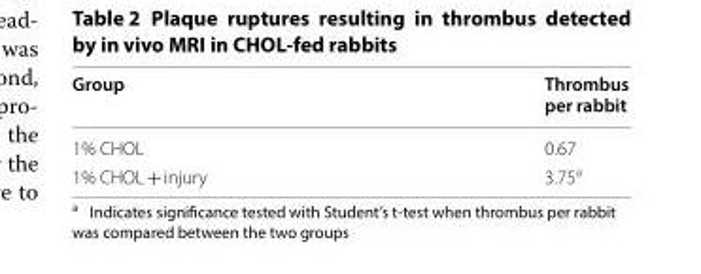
<table><thead><tr><td>Group</td><td>Thrombus per rabbit</td></tr></thead><tbody><tr><td>1% CHOL</td><td>0.67</td></tr><tr><td>1% CHOL + injury</td><td>3.75<sup>a</sup></td></tr></tbody></table>